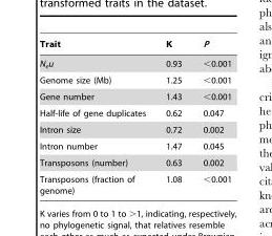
<table><thead><tr><td>Trait</td><td>K</td><td>P</td></tr></thead><tbody><tr><td>N<sub>e</sub>u</td><td>0.93</td><td>&lt;0.001</td></tr><tr><td>Genome size (Mb)</td><td>1.25</td><td>&lt;0.001</td></tr><tr><td>Gene number</td><td>1.43</td><td>&lt;0.001</td></tr><tr><td>Half-life of gene duplicates</td><td>0.62</td><td>0.047</td></tr><tr><td>Intron size</td><td>0.72</td><td>0.002</td></tr><tr><td>Intron number</td><td>1.47</td><td>0.045</td></tr><tr><td>Transposons (number)</td><td>0.63</td><td>0.002</td></tr><tr><td>Transposons (fraction of genome)</td><td>1.08</td><td>&lt;0.001</td></tr></tbody></table>